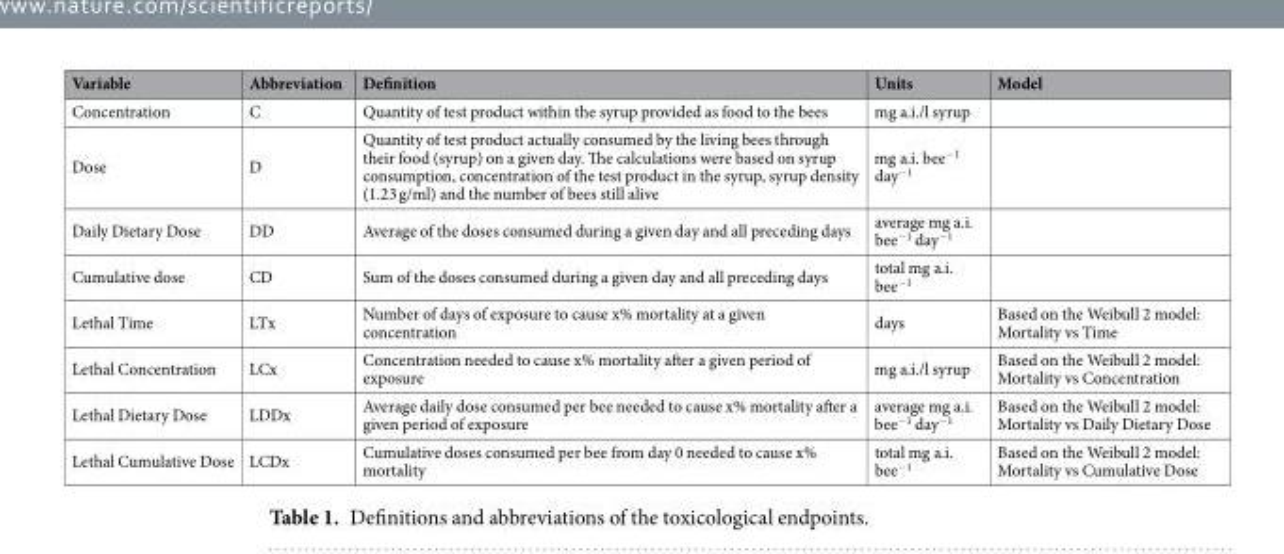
<table><thead><tr><td>Variable</td><td>Abbreviation</td><td>Definition</td><td>Units</td><td>Model</td></tr></thead><tbody><tr><td>Concentration</td><td>C</td><td>Quantity of test product within the syrup provided as food to the bees</td><td>mg a.i./l syrup</td><td></td></tr><tr><td>Dose</td><td>D</td><td>Quantity of test product actually consumed by the living bees through their food (syrup) on a given day. The calculations were based on syrup consumption, concentration of the test product in the syrup, syrup density (1.23 g/ml) and the number of bees still alive</td><td>mg a.i. bee<sup>−1</sup> day<sup>−1</sup></td><td></td></tr><tr><td>Daily Dietary Dose</td><td>DD</td><td>Average of the doses consumed during a given day and all preceding days</td><td>average mg a.i. bee<sup>−1</sup> day<sup>−1</sup></td><td></td></tr><tr><td>Cumulative dose</td><td>CD</td><td>Sum of the doses consumed during a given day and all preceding days</td><td>total mg a.i. bee<sup>−1</sup></td><td></td></tr><tr><td>Lethal Time</td><td>LTx</td><td>Number of days of exposure to cause x% mortality at a given concentration</td><td>days</td><td>Based on the Weibull 2 model: Mortality vs Time</td></tr><tr><td>Lethal Concentration</td><td>LCx</td><td>Concentration needed to cause x% mortality after a given period of exposure</td><td>mg a.i./l syrup</td><td>Based on the Weibull 2 model: Mortality vs Concentration</td></tr><tr><td>Lethal Dietary Dose</td><td>LDDx</td><td>Average daily dose consumed per bee needed to cause x% mortality after a given period of exposure</td><td>average mg a.i. bee<sup>−1</sup> day<sup>−1</sup></td><td>Based on the Weibull 2 model: Mortality vs Daily Dietary Dose</td></tr><tr><td>Lethal Cumulative Dose</td><td>LCDx</td><td>Cumulative doses consumed per bee from day 0 needed to cause x% mortality</td><td>total mg a.i. bee<sup>−1</sup></td><td>Based on the Weibull 2 model: Mortality vs Cumulative Dose</td></tr></tbody></table>